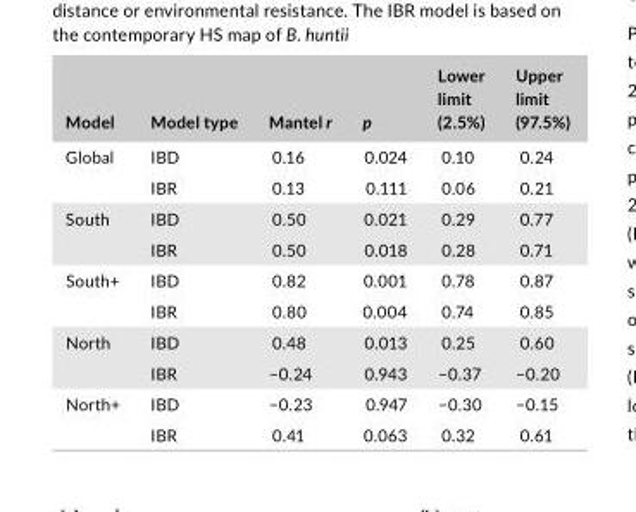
<table><thead><tr><td>Model</td><td>Model type</td><td>Mantel r</td><td>p</td><td>Lower limit (2.5%)</td><td>Upper limit (97.5%)</td></tr></thead><tbody><tr><td rowspan="2">Global</td><td>IBD</td><td>0.16</td><td>0.024</td><td>0.10</td><td>0.24</td></tr><tr><td>IBR</td><td>0.13</td><td>0.111</td><td>0.06</td><td>0.21</td></tr><tr><td rowspan="2">South</td><td>IBD</td><td>0.50</td><td>0.021</td><td>0.29</td><td>0.77</td></tr><tr><td>IBR</td><td>0.50</td><td>0.018</td><td>0.28</td><td>0.71</td></tr><tr><td rowspan="2">South+</td><td>IBD</td><td>0.82</td><td>0.001</td><td>0.78</td><td>0.87</td></tr><tr><td>IBR</td><td>0.80</td><td>0.004</td><td>0.74</td><td>0.85</td></tr><tr><td rowspan="2">North</td><td>IBD</td><td>0.48</td><td>0.013</td><td>0.25</td><td>0.60</td></tr><tr><td>IBR</td><td>−0.24</td><td>0.943</td><td>−0.37</td><td>−0.20</td></tr><tr><td rowspan="2">North+</td><td>IBD</td><td>−0.23</td><td>0.947</td><td>−0.30</td><td>−0.15</td></tr><tr><td>IBR</td><td>0.41</td><td>0.063</td><td>0.32</td><td>0.61</td></tr></tbody></table>